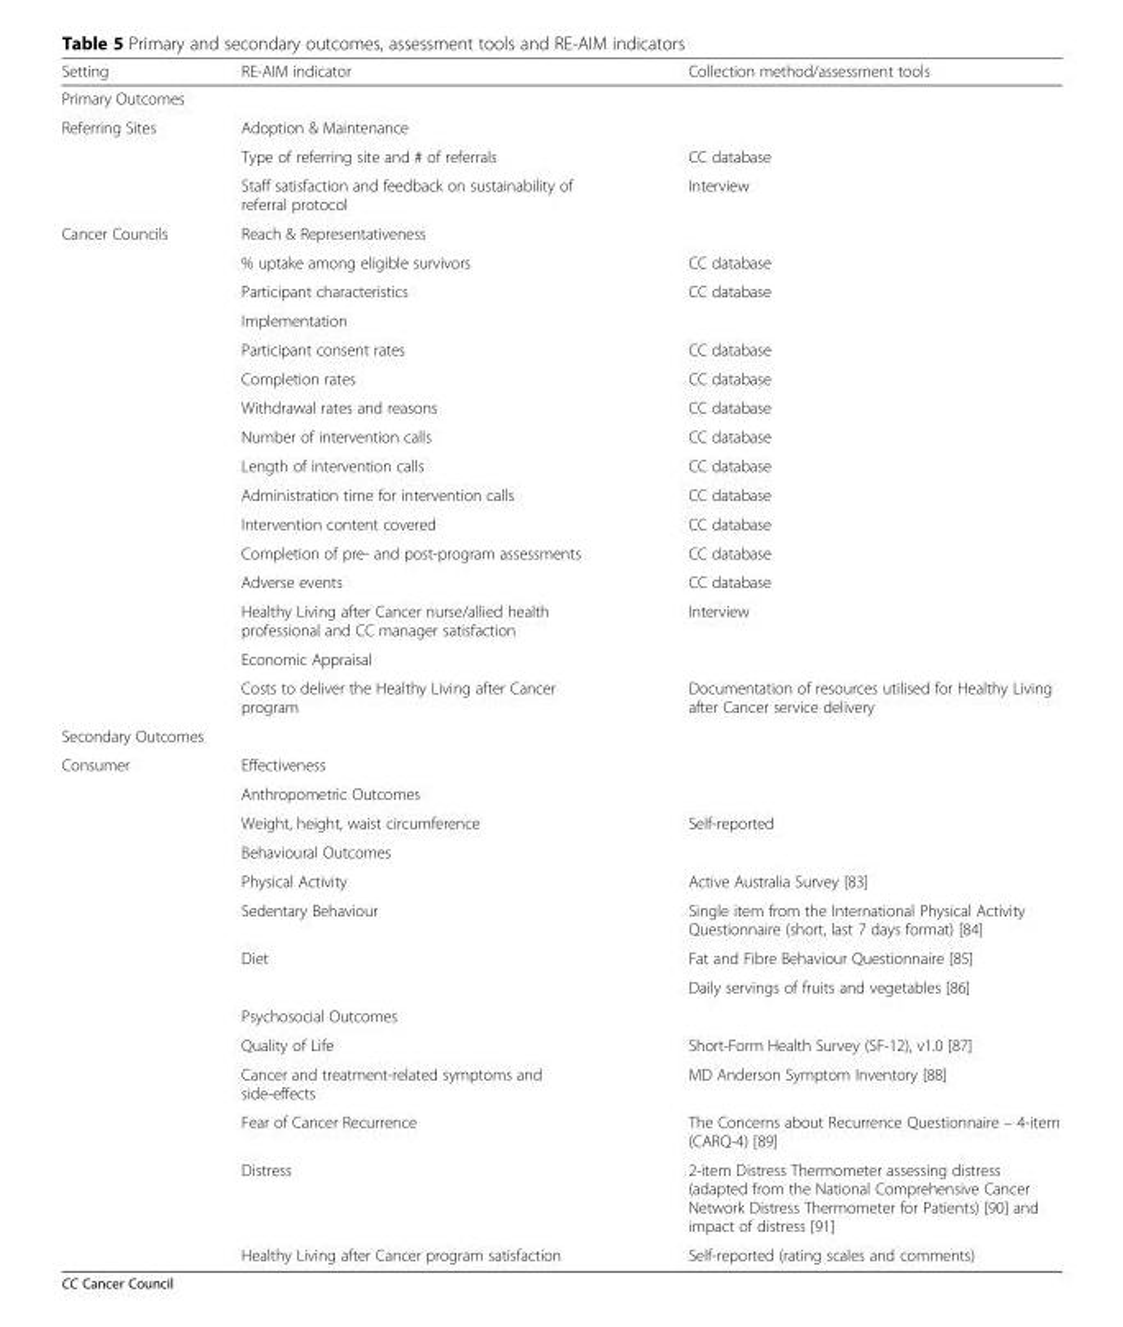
<table><thead><tr><td>Setting</td><td>RE-AIM indicator</td><td>Collection method/assessment tools</td></tr></thead><tbody><tr><td colspan="3">Primary Outcomes</td></tr><tr><td rowspan="3">Referring Sites</td><td colspan="2">Adoption &amp; Maintenance</td></tr><tr><td>Type of referring site and # of referrals</td><td>CC database</td></tr><tr><td>Staff satisfaction and feedback on sustainability of referral protocol</td><td>Interview</td></tr><tr><td rowspan="16">Cancer Councils</td><td colspan="2">Reach &amp; Representativeness</td></tr><tr><td>% uptake among eligible survivors</td><td>CC database</td></tr><tr><td>Participant characteristics</td><td>CC database</td></tr><tr><td colspan="2">Implementation</td></tr><tr><td>Participant consent rates</td><td>CC database</td></tr><tr><td>Completion rates</td><td>CC database</td></tr><tr><td>Withdrawal rates and reasons</td><td>CC database</td></tr><tr><td>Number of intervention calls</td><td>CC database</td></tr><tr><td>Length of intervention calls</td><td>CC database</td></tr><tr><td>Administration time for intervention calls</td><td>CC database</td></tr><tr><td>Intervention content covered</td><td>CC database</td></tr><tr><td>Completion of pre- and post-program assessments</td><td>CC database</td></tr><tr><td>Adverse events</td><td>CC database</td></tr><tr><td>Healthy Living after Cancer nurse/allied health professional and CC manager satisfaction</td><td>Interview</td></tr><tr><td colspan="2">Economic Appraisal</td></tr><tr><td>Costs to deliver the Healthy Living after Cancer program</td><td>Documentation of resources utilised for Healthy Living after Cancer service delivery</td></tr><tr><td colspan="3">Secondary Outcomes</td></tr><tr><td rowspan="14">Consumer</td><td colspan="2">Effectiveness</td></tr><tr><td colspan="2">Anthropometric Outcomes</td></tr><tr><td>Weight, height, waist circumference</td><td>Self-reported</td></tr><tr><td colspan="2">Behavioural Outcomes</td></tr><tr><td>Physical Activity</td><td>Active Australia Survey [83]</td></tr><tr><td>Sedentary Behaviour</td><td>Single item from the International Physical Activity Questionnaire (short, last 7 days format) [84]</td></tr><tr><td rowspan="2">Diet</td><td>Fat and Fibre Behaviour Questionnaire [85]</td></tr><tr><td>Daily servings of fruits and vegetables [86]</td></tr><tr><td colspan="2">Psychosocial Outcomes</td></tr><tr><td>Quality of Life</td><td>Short-Form Health Survey (SF-12), v1.0 [87]</td></tr><tr><td>Cancer and treatment-related symptoms and side-effects</td><td>MD Anderson Symptom Inventory [88]</td></tr><tr><td>Fear of Cancer Recurrence</td><td>The Concerns about Recurrence Questionnaire – 4-item (CARQ-4) [89]</td></tr><tr><td>Distress</td><td>2-item Distress Thermometer assessing distress (adapted from the National Comprehensive Cancer Network Distress Thermometer for Patients) [90] and impact of distress [91]</td></tr><tr><td>Healthy Living after Cancer program satisfaction</td><td>Self-reported (rating scales and comments)</td></tr></tbody></table>